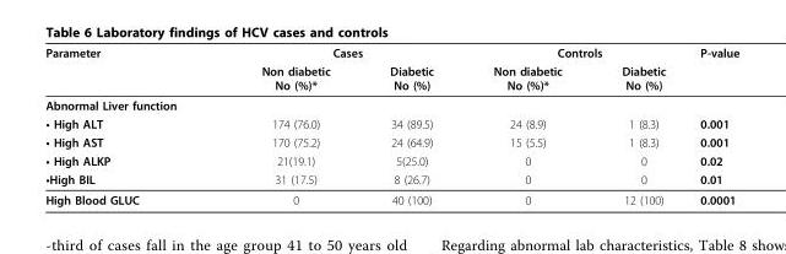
<table><thead><tr><td rowspan="2">Parameter</td><td colspan="2">Cases</td><td colspan="2">Controls</td><td rowspan="2">P-value</td></tr><tr><td>Non diabetic No (%)*</td><td>Diabetic No (%)</td><td>Non diabetic No (%)*</td><td>Diabetic No (%)</td></tr></thead><tbody><tr><td colspan="6">Abnormal Liver function</td></tr><tr><td>• High ALT</td><td>174 (76.0)</td><td>34 (89.5)</td><td>24 (8.9)</td><td>1 (8.3)</td><td>0.001</td></tr><tr><td>• High AST</td><td>170 (75.2)</td><td>24 (64.9)</td><td>15 (5.5)</td><td>1 (8.3)</td><td>0.001</td></tr><tr><td>• High ALKP</td><td>21(19.1)</td><td>5(25.0)</td><td>0</td><td>0</td><td>0.02</td></tr><tr><td>•High BIL</td><td>31 (17.5)</td><td>8 (26.7)</td><td>0</td><td>0</td><td>0.01</td></tr><tr><td>High Blood GLUC</td><td>0</td><td>40 (100)</td><td>0</td><td>12 (100)</td><td>0.0001</td></tr></tbody></table>